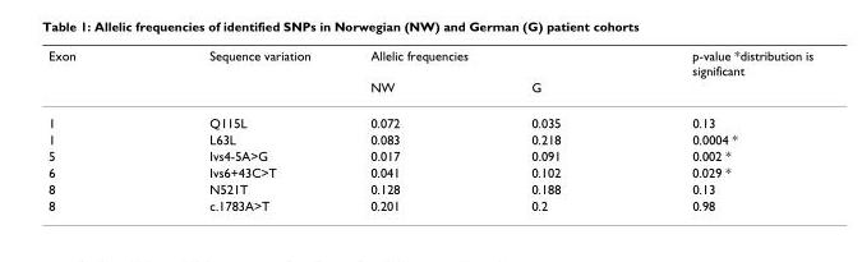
<table><thead><tr><td rowspan="2">Exon</td><td rowspan="2">Sequence variation</td><td colspan="2">Allelic frequencies</td><td rowspan="2">p-value *distribution is significant</td></tr><tr><td>NW</td><td>G</td></tr></thead><tbody><tr><td>1</td><td>Q115L</td><td>0.072</td><td>0.035</td><td>0.13</td></tr><tr><td>1</td><td>L63L</td><td>0.083</td><td>0.218</td><td>0.0004 *</td></tr><tr><td>5</td><td>Ivs4-5A&gt;G</td><td>0.017</td><td>0.091</td><td>0.002 *</td></tr><tr><td>6</td><td>Ivs6+43C&gt;T</td><td>0.041</td><td>0.102</td><td>0.029 *</td></tr><tr><td>8</td><td>N521T</td><td>0.128</td><td>0.188</td><td>0.13</td></tr><tr><td>8</td><td>c.1783A&gt;T</td><td>0.201</td><td>0.2</td><td>0.98</td></tr></tbody></table>